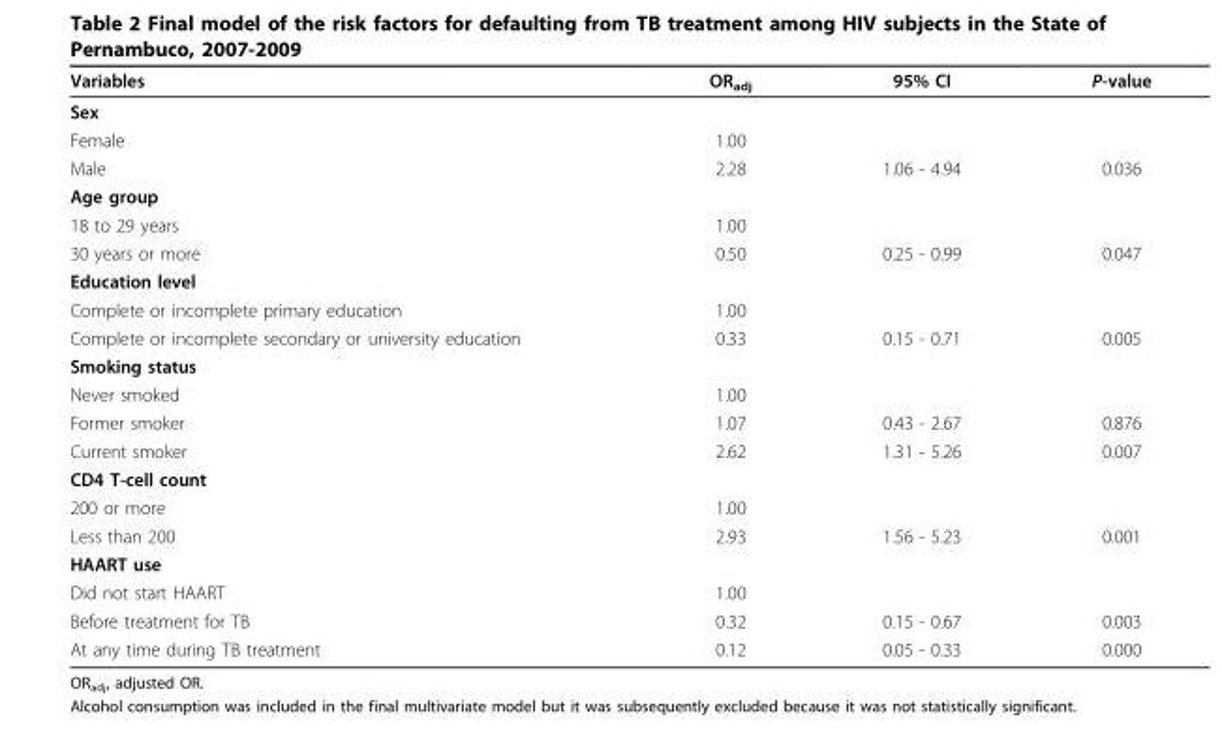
<table><thead><tr><td>Variables</td><td>OR<sub>adj</sub></td><td>95% CI</td><td>P-value</td></tr></thead><tbody><tr><td colspan="4">Sex</td></tr><tr><td>Female</td><td>1.00</td><td></td><td></td></tr><tr><td>Male</td><td>2.28</td><td>1.06 - 4.94</td><td>0.036</td></tr><tr><td colspan="4">Age group</td></tr><tr><td>18 to 29 years</td><td>1.00</td><td></td><td></td></tr><tr><td>30 years or more</td><td>0.50</td><td>0.25 - 0.99</td><td>0.047</td></tr><tr><td colspan="4">Education level</td></tr><tr><td>Complete or incomplete primary education</td><td>1.00</td><td></td><td></td></tr><tr><td>Complete or incomplete secondary or university education</td><td>0.33</td><td>0.15 - 0.71</td><td>0.005</td></tr><tr><td colspan="4">Smoking status</td></tr><tr><td>Never smoked</td><td>1.00</td><td></td><td></td></tr><tr><td>Former smoker</td><td>1.07</td><td>0.43 - 2.67</td><td>0.876</td></tr><tr><td>Current smoker</td><td>2.62</td><td>1.31 - 5.26</td><td>0.007</td></tr><tr><td colspan="4">CD4 T-cell count</td></tr><tr><td>200 or more</td><td>1.00</td><td></td><td></td></tr><tr><td>Less than 200</td><td>2.93</td><td>1.56 - 5.23</td><td>0.001</td></tr><tr><td colspan="4">HAART use</td></tr><tr><td>Did not start HAART</td><td>1.00</td><td></td><td></td></tr><tr><td>Before treatment for TB</td><td>0.32</td><td>0.15 - 0.67</td><td>0.003</td></tr><tr><td>At any time during TB treatment</td><td>0.12</td><td>0.05 - 0.33</td><td>0.000</td></tr></tbody></table>